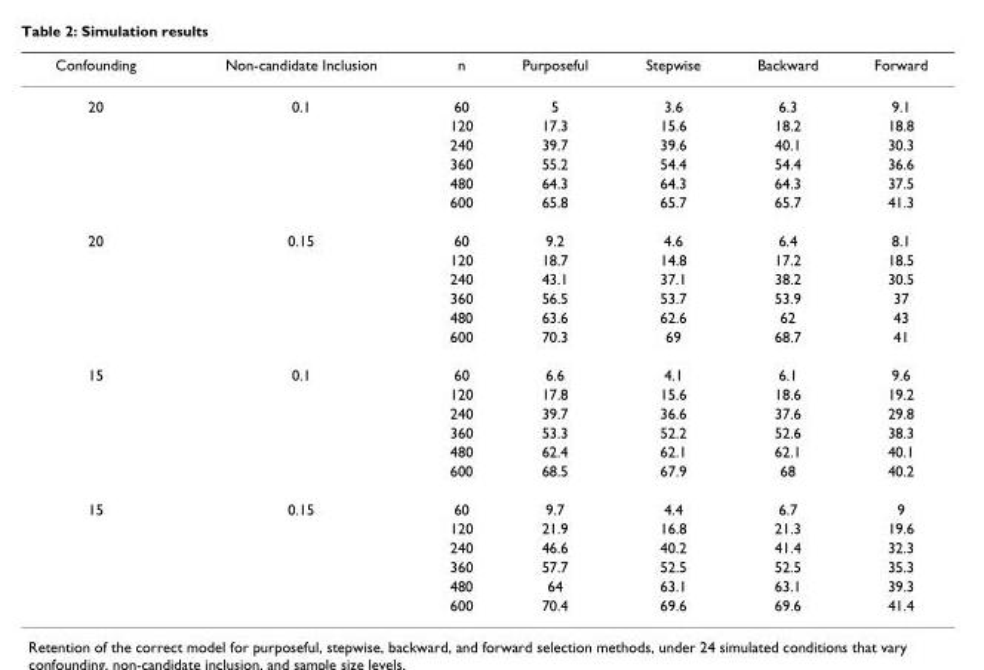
<table><thead><tr><td>Confounding</td><td>Non-candidate Inclusion</td><td>n</td><td>Purposeful</td><td>Stepwise</td><td>Backward</td><td>Forward</td></tr></thead><tbody><tr><td rowspan="6">20</td><td>0.1</td><td>60</td><td>5</td><td>3.6</td><td>6.3</td><td>9.1</td></tr><tr><td></td><td>120</td><td>17.3</td><td>15.6</td><td>18.2</td><td>18.8</td></tr><tr><td></td><td>240</td><td>39.7</td><td>39.6</td><td>40.1</td><td>30.3</td></tr><tr><td></td><td>360</td><td>55.2</td><td>54.4</td><td>54.4</td><td>36.6</td></tr><tr><td></td><td>480</td><td>64.3</td><td>64.3</td><td>64.3</td><td>37.5</td></tr><tr><td></td><td>600</td><td>65.8</td><td>65.7</td><td>65.7</td><td>41.3</td></tr><tr><td rowspan="6">20</td><td>0.15</td><td>60</td><td>9.2</td><td>4.6</td><td>6.4</td><td>8.1</td></tr><tr><td></td><td>120</td><td>18.7</td><td>14.8</td><td>17.2</td><td>18.5</td></tr><tr><td></td><td>240</td><td>43.1</td><td>37.1</td><td>38.2</td><td>30.5</td></tr><tr><td></td><td>360</td><td>56.5</td><td>53.7</td><td>53.9</td><td>37</td></tr><tr><td></td><td>480</td><td>63.6</td><td>62.6</td><td>62</td><td>43</td></tr><tr><td></td><td>600</td><td>70.3</td><td>69</td><td>68.7</td><td>41</td></tr><tr><td rowspan="6">15</td><td>0.1</td><td>60</td><td>6.6</td><td>4.1</td><td>6.1</td><td>9.6</td></tr><tr><td></td><td>120</td><td>17.8</td><td>15.6</td><td>18.6</td><td>19.2</td></tr><tr><td></td><td>240</td><td>39.7</td><td>36.6</td><td>37.6</td><td>29.8</td></tr><tr><td></td><td>360</td><td>53.3</td><td>52.2</td><td>52.6</td><td>38.3</td></tr><tr><td></td><td>480</td><td>62.4</td><td>62.1</td><td>62.1</td><td>40.1</td></tr><tr><td></td><td>600</td><td>68.5</td><td>67.9</td><td>68</td><td>40.2</td></tr><tr><td rowspan="6">15</td><td>0.15</td><td>60</td><td>9.7</td><td>4.4</td><td>6.7</td><td>9</td></tr><tr><td></td><td>120</td><td>21.9</td><td>16.8</td><td>21.3</td><td>19.6</td></tr><tr><td></td><td>240</td><td>46.6</td><td>40.2</td><td>41.4</td><td>32.3</td></tr><tr><td></td><td>360</td><td>57.7</td><td>52.5</td><td>52.5</td><td>35.3</td></tr><tr><td></td><td>480</td><td>64</td><td>63.1</td><td>63.1</td><td>39.3</td></tr><tr><td></td><td>600</td><td>70.4</td><td>69.6</td><td>69.6</td><td>41.4</td></tr></tbody></table>